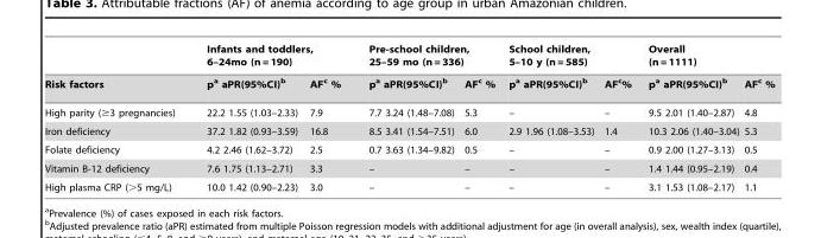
<table><thead><tr><td rowspan="2">Risk factors</td><td colspan="2">Infants and toddlers, 6–24mo (n = 190)</td><td colspan="2">Pre-school children, 25–59 mo (n = 336)</td><td colspan="2">School children, 5–10 y (n = 585)</td><td colspan="2">Overall (n = 1111)</td></tr><tr><td>pa aPR(95%CI)b</td><td>AFc %</td><td>pa aPR(95%CI)b</td><td>AFc %</td><td>pa aPR(95%CI)b</td><td>AFc%</td><td>pa aPR(95%CI)b</td><td>AFc %</td></tr></thead><tbody><tr><td>High parity (≥3 pregnancies)</td><td>22.2 1.55 (1.03–2.33)</td><td>7.9</td><td>7.7 3.24 (1.48–7.08)</td><td>5.3</td><td>–</td><td>–</td><td>9.5 2.01 (1.40–2.87)</td><td>4.8</td></tr><tr><td>Iron deficiency</td><td>37.2 1.82 (0.93–3.59)</td><td>16.8</td><td>8.5 3.41 (1.54–7.51)</td><td>6.0</td><td>2.9 1.96 (1.08–3.53)</td><td>1.4</td><td>10.3 2.06 (1.40–3.04)</td><td>5.3</td></tr><tr><td>Folate deficiency</td><td>4.2 2.46 (1.62–3.72)</td><td>2.5</td><td>0.7 3.63 (1.34–9.82)</td><td>0.5</td><td>–</td><td>–</td><td>0.9 2.00 (1.27–3.13)</td><td>0.5</td></tr><tr><td>Vitamin B-12 deficiency</td><td>7.6 1.75 (1.13–2.71)</td><td>3.3</td><td>–</td><td>–</td><td>–</td><td>–</td><td>1.4 1.44 (0.95–2.19)</td><td>0.4</td></tr><tr><td>High plasma CRP (&gt;5 mg/L)</td><td>10.0 1.42 (0.90–2.23)</td><td>3.0</td><td>–</td><td>–</td><td>–</td><td>–</td><td>3.1 1.53 (1.08–2.17)</td><td>1.1</td></tr></tbody></table>